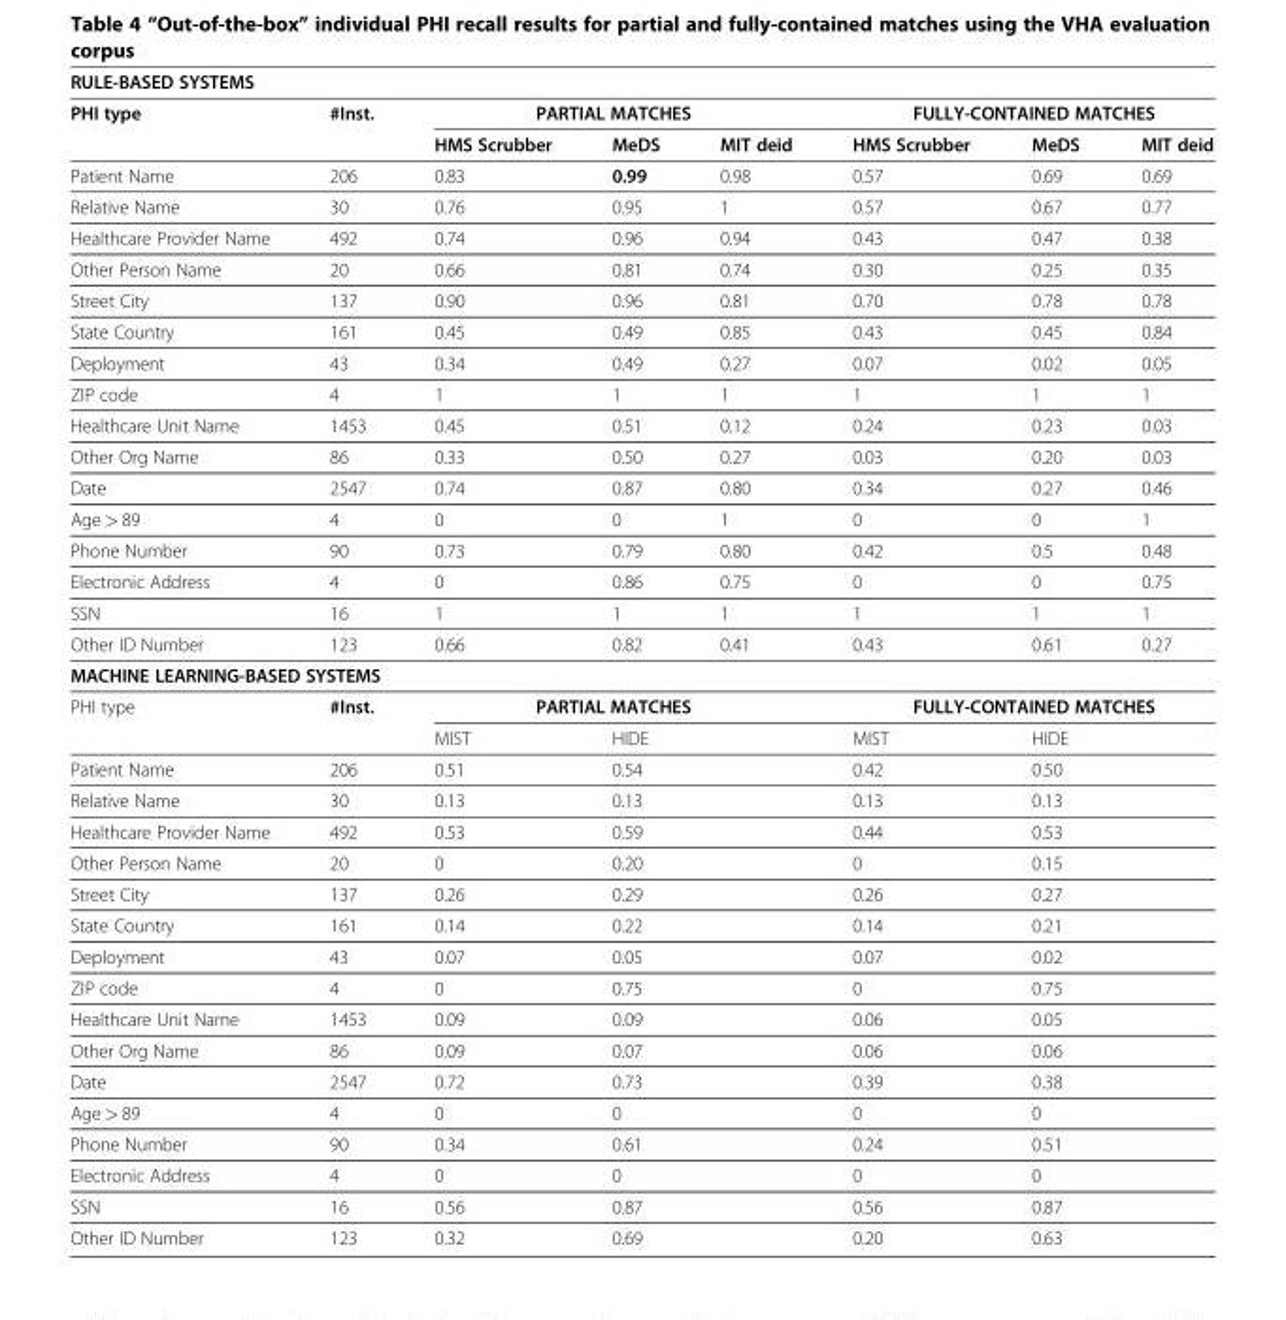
<table><thead><tr><td colspan="8">RULE-BASED SYSTEMS</td></tr><tr><td rowspan="2">PHI type</td><td rowspan="2">#Inst.</td><td colspan="3">PARTIAL MATCHES</td><td colspan="3">FULLY-CONTAINED MATCHES</td></tr><tr><td>HMS Scrubber</td><td>MeDS</td><td>MIT deid</td><td>HMS Scrubber</td><td>MeDS</td><td>MIT deid</td></tr></thead><tbody><tr><td>Patient Name</td><td>206</td><td>0.83</td><td>0.99</td><td>0.98</td><td>0.57</td><td>0.69</td><td>0.69</td></tr><tr><td>Relative Name</td><td>30</td><td>0.76</td><td>0.95</td><td>1</td><td>0.57</td><td>0.67</td><td>0.77</td></tr><tr><td>Healthcare Provider Name</td><td>492</td><td>0.74</td><td>0.96</td><td>0.94</td><td>0.43</td><td>0.47</td><td>0.38</td></tr><tr><td>Other Person Name</td><td>20</td><td>0.66</td><td>0.81</td><td>0.74</td><td>0.30</td><td>0.25</td><td>0.35</td></tr><tr><td>Street City</td><td>137</td><td>0.90</td><td>0.96</td><td>0.81</td><td>0.70</td><td>0.78</td><td>0.78</td></tr><tr><td>State Country</td><td>161</td><td>0.45</td><td>0.49</td><td>0.85</td><td>0.43</td><td>0.45</td><td>0.84</td></tr><tr><td>Deployment</td><td>43</td><td>0.34</td><td>0.49</td><td>0.27</td><td>0.07</td><td>0.02</td><td>0.05</td></tr><tr><td>ZIP code</td><td>4</td><td>1</td><td>1</td><td>1</td><td>1</td><td>1</td><td>1</td></tr><tr><td>Healthcare Unit Name</td><td>1453</td><td>0.45</td><td>0.51</td><td>0.12</td><td>0.24</td><td>0.23</td><td>0.03</td></tr><tr><td>Other Org Name</td><td>86</td><td>0.33</td><td>0.50</td><td>0.27</td><td>0.03</td><td>0.20</td><td>0.03</td></tr><tr><td>Date</td><td>2547</td><td>0.74</td><td>0.87</td><td>0.80</td><td>0.34</td><td>0.27</td><td>0.46</td></tr><tr><td>Age &gt; 89</td><td>4</td><td>0</td><td>0</td><td>1</td><td>0</td><td>0</td><td>1</td></tr><tr><td>Phone Number</td><td>90</td><td>0.73</td><td>0.79</td><td>0.80</td><td>0.42</td><td>0.5</td><td>0.48</td></tr><tr><td>Electronic Address</td><td>4</td><td>0</td><td>0.86</td><td>0.75</td><td>0</td><td>0</td><td>0.75</td></tr><tr><td>SSN</td><td>16</td><td>1</td><td>1</td><td>1</td><td>1</td><td>1</td><td>1</td></tr><tr><td>Other ID Number</td><td>123</td><td>0.66</td><td>0.82</td><td>0.41</td><td>0.43</td><td>0.61</td><td>0.27</td></tr><tr><td colspan="8">MACHINE LEARNING-BASED SYSTEMS</td></tr><tr><td rowspan="2">PHI type</td><td>#Inst.</td><td colspan="3">PARTIAL MATCHES</td><td colspan="3">FULLY-CONTAINED MATCHES</td></tr><tr><td></td><td>MIST</td><td colspan="2">HIDE</td><td>MIST</td><td colspan="2">HIDE</td></tr><tr><td>Patient Name</td><td>206</td><td>0.51</td><td colspan="2">0.54</td><td>0.42</td><td colspan="2">0.50</td></tr><tr><td>Relative Name</td><td>30</td><td>0.13</td><td colspan="2">0.13</td><td>0.13</td><td colspan="2">0.13</td></tr><tr><td>Healthcare Provider Name</td><td>492</td><td>0.53</td><td colspan="2">0.59</td><td>0.44</td><td colspan="2">0.53</td></tr><tr><td>Other Person Name</td><td>20</td><td>0</td><td colspan="2">0.20</td><td>0</td><td colspan="2">0.15</td></tr><tr><td>Street City</td><td>137</td><td>0.26</td><td colspan="2">0.29</td><td>0.26</td><td colspan="2">0.27</td></tr><tr><td>State Country</td><td>161</td><td>0.14</td><td colspan="2">0.22</td><td>0.14</td><td colspan="2">0.21</td></tr><tr><td>Deployment</td><td>43</td><td>0.07</td><td colspan="2">0.05</td><td>0.07</td><td colspan="2">0.02</td></tr><tr><td>ZIP code</td><td>4</td><td>0</td><td colspan="2">0.75</td><td>0</td><td colspan="2">0.75</td></tr><tr><td>Healthcare Unit Name</td><td>1453</td><td>0.09</td><td colspan="2">0.09</td><td>0.06</td><td colspan="2">0.05</td></tr><tr><td>Other Org Name</td><td>86</td><td>0.09</td><td colspan="2">0.07</td><td>0.06</td><td colspan="2">0.06</td></tr><tr><td>Date</td><td>2547</td><td>0.72</td><td colspan="2">0.73</td><td>0.39</td><td colspan="2">0.38</td></tr><tr><td>Age &gt; 89</td><td>4</td><td>0</td><td colspan="2">0</td><td>0</td><td colspan="2">0</td></tr><tr><td>Phone Number</td><td>90</td><td>0.34</td><td colspan="2">0.61</td><td>0.24</td><td colspan="2">0.51</td></tr><tr><td>Electronic Address</td><td>4</td><td>0</td><td colspan="2">0</td><td>0</td><td colspan="2">0</td></tr><tr><td>SSN</td><td>16</td><td>0.56</td><td colspan="2">0.87</td><td>0.56</td><td colspan="2">0.87</td></tr><tr><td>Other ID Number</td><td>123</td><td>0.32</td><td colspan="2">0.69</td><td>0.20</td><td colspan="2">0.63</td></tr></tbody></table>